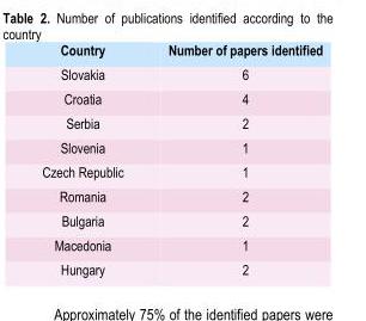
<table><thead><tr><td rowspan="10">Country Slovakia Croatia Serbia Slovenia Czech Republic Romania Bulgaria Macedonia Hungary</td><td rowspan="10">Number of papers identified 6 4 2 1 1 2 2 1 2</td></tr><tr></tr><tr></tr><tr></tr><tr></tr><tr></tr><tr></tr><tr></tr><tr></tr><tr></tr></thead><tbody></tbody></table>